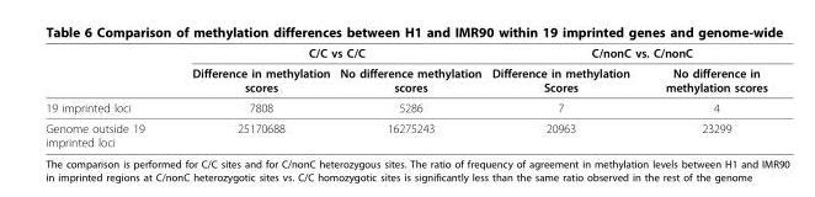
<table><thead><tr><td rowspan="2"></td><td colspan="2">C/C vs C/C</td><td colspan="2">C/nonC vs. C/nonC</td></tr><tr><td>Difference in methylation scores</td><td>No difference methylation scores</td><td>Difference in methylation Scores</td><td>No difference in methylation scores</td></tr></thead><tbody><tr><td>19 imprinted loci</td><td>7808</td><td>5286</td><td>7</td><td>4</td></tr><tr><td>Genome outside 19 imprinted loci</td><td>25170688</td><td>16275243</td><td>20963</td><td>23299</td></tr></tbody></table>